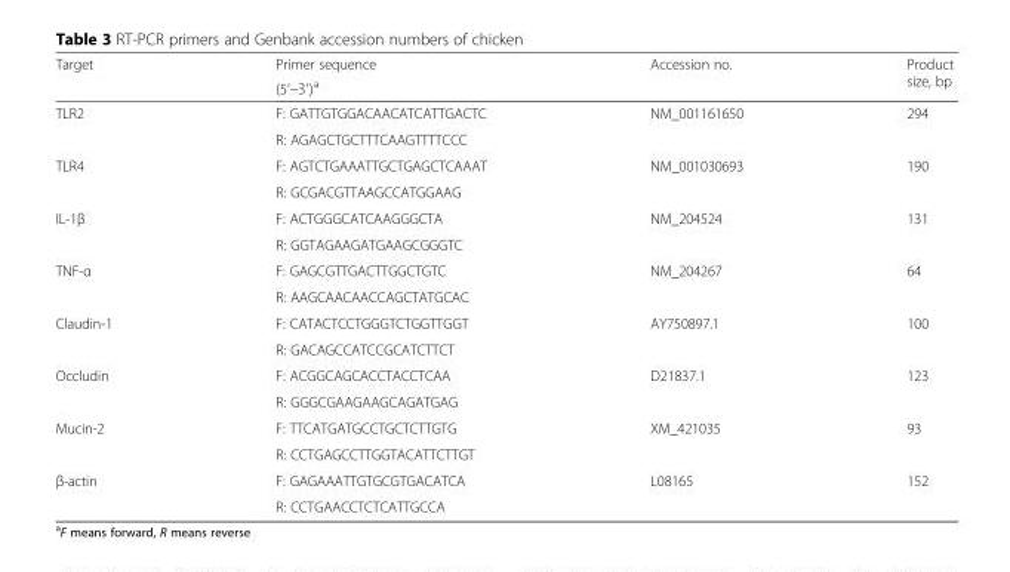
<table><thead><tr><td rowspan="2">Target</td><td rowspan="2">Primer sequence (5′–3′)<sup>a</sup></td><td rowspan="2">Accession no.</td><td rowspan="2">Product size, bp</td></tr><tr></tr></thead><tbody><tr><td rowspan="2">TLR2</td><td>F: GATTGTGGACAACATCATTGACTC</td><td rowspan="2">NM_001161650</td><td rowspan="2">294</td></tr><tr><td>R: AGAGCTGCTTTCAAGTTTTCCC</td></tr><tr><td rowspan="2">TLR4</td><td>F: AGTCTGAAATTGCTGAGCTCAAAT</td><td rowspan="2">NM_001030693</td><td rowspan="2">190</td></tr><tr><td>R: GCGACGTTAAGCCATGGAAG</td></tr><tr><td rowspan="2">IL-1β</td><td>F: ACTGGGCATCAAGGGCTA</td><td rowspan="2">NM_204524</td><td rowspan="2">131</td></tr><tr><td>R: GGTAGAAGATGAAGCGGGTC</td></tr><tr><td rowspan="2">TNF-α</td><td>F: GAGCGTTGACTTGGCTGTC</td><td rowspan="2">NM_204267</td><td rowspan="2">64</td></tr><tr><td>R: AAGCAACAACCAGCTATGCAC</td></tr><tr><td rowspan="2">Claudin-1</td><td>F: CATACTCCTGGGTCTGGTTGGT</td><td rowspan="2">AY750897.1</td><td rowspan="2">100</td></tr><tr><td>R: GACAGCCATCCGCATCTTCT</td></tr><tr><td rowspan="2">Occludin</td><td>F: ACGGCAGCACCTACCTCAA</td><td rowspan="2">D21837.1</td><td rowspan="2">123</td></tr><tr><td>R: GGGCGAAGAAGCAGATGAG</td></tr><tr><td rowspan="2">Mucin-2</td><td>F: TTCATGATGCCTGCTCTTGTG</td><td rowspan="2">XM_421035</td><td rowspan="2">93</td></tr><tr><td>R: CCTGAGCCTTGGTACATTCTTGT</td></tr><tr><td rowspan="2">β-actin</td><td>F: GAGAAATTGTGCGTGACATCA</td><td rowspan="2">L08165</td><td rowspan="2">152</td></tr><tr><td>R: CCTGAACCTCTCATTGCCA</td></tr></tbody></table>